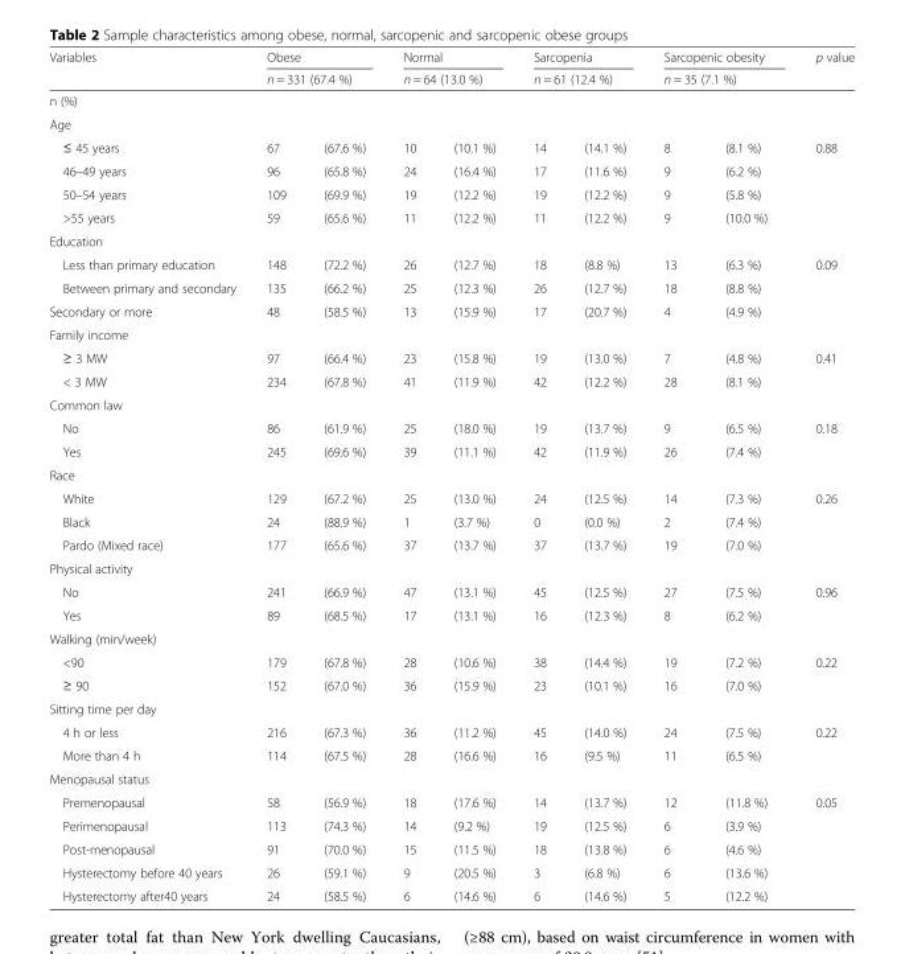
<table><thead><tr><td rowspan="2">Variables</td><td rowspan="2" colspan="2">Obese n = 331 (67.4 %)</td><td rowspan="2" colspan="2">Normal n = 64 (13.0 %)</td><td rowspan="2" colspan="2">Sarcopenia n = 61 (12.4 %)</td><td rowspan="2" colspan="2">Sarcopenic obesity n = 35 (7.1 %)</td><td rowspan="2">p value</td></tr><tr></tr><tr><td colspan="10">n (%)</td></tr><tr><td>Age</td><td></td><td></td><td></td><td></td><td></td><td></td><td></td><td></td><td></td></tr></thead><tbody><tr><td>≤ 45 years</td><td>67</td><td>(67.6 %)</td><td>10</td><td>(10.1 %)</td><td>14</td><td>(14.1 %)</td><td>8</td><td>(8.1 %)</td><td rowspan="4">0.88</td></tr><tr><td>46–49 years</td><td>96</td><td>(65.8 %)</td><td>24</td><td>(16.4 %)</td><td>17</td><td>(11.6 %)</td><td>9</td><td>(6.2 %)</td></tr><tr><td>50–54 years</td><td>109</td><td>(69.9 %)</td><td>19</td><td>(12.2 %)</td><td>19</td><td>(12.2 %)</td><td>9</td><td>(5.8 %)</td></tr><tr><td>&gt;55 years</td><td>59</td><td>(65.6 %)</td><td>11</td><td>(12.2 %)</td><td>11</td><td>(12.2 %)</td><td>9</td><td>(10.0 %)</td></tr><tr><td colspan="10">Education</td></tr><tr><td>Less than primary education</td><td>148</td><td>(72.2 %)</td><td>26</td><td>(12.7 %)</td><td>18</td><td>(8.8 %)</td><td>13</td><td>(6.3 %)</td><td rowspan="3">0.09</td></tr><tr><td>Between primary and secondary</td><td>135</td><td>(66.2 %)</td><td>25</td><td>(12.3 %)</td><td>26</td><td>(12.7 %)</td><td>18</td><td>(8.8 %)</td></tr><tr><td>Secondary or more</td><td>48</td><td>(58.5 %)</td><td>13</td><td>(15.9 %)</td><td>17</td><td>(20.7 %)</td><td>4</td><td>(4.9 %)</td></tr><tr><td colspan="10">Family income</td></tr><tr><td>≥ 3 MW</td><td>97</td><td>(66.4 %)</td><td>23</td><td>(15.8 %)</td><td>19</td><td>(13.0 %)</td><td>7</td><td>(4.8 %)</td><td rowspan="2">0.41</td></tr><tr><td>&lt; 3 MW</td><td>234</td><td>(67.8 %)</td><td>41</td><td>(11.9 %)</td><td>42</td><td>(12.2 %)</td><td>28</td><td>(8.1 %)</td></tr><tr><td colspan="10">Common law</td></tr><tr><td>No</td><td>86</td><td>(61.9 %)</td><td>25</td><td>(18.0 %)</td><td>19</td><td>(13.7 %)</td><td>9</td><td>(6.5 %)</td><td rowspan="2">0.18</td></tr><tr><td>Yes</td><td>245</td><td>(69.6 %)</td><td>39</td><td>(11.1 %)</td><td>42</td><td>(11.9 %)</td><td>26</td><td>(7.4 %)</td></tr><tr><td colspan="10">Race</td></tr><tr><td>White</td><td>129</td><td>(67.2 %)</td><td>25</td><td>(13.0 %)</td><td>24</td><td>(12.5 %)</td><td>14</td><td>(7.3 %)</td><td rowspan="3">0.26</td></tr><tr><td>Black</td><td>24</td><td>(88.9 %)</td><td>1</td><td>(3.7 %)</td><td>0</td><td>(0.0 %)</td><td>2</td><td>(7.4 %)</td></tr><tr><td>Pardo (Mixed race)</td><td>177</td><td>(65.6 %)</td><td>37</td><td>(13.7 %)</td><td>37</td><td>(13.7 %)</td><td>19</td><td>(7.0 %)</td></tr><tr><td colspan="10">Physical activity</td></tr><tr><td>No</td><td>241</td><td>(66.9 %)</td><td>47</td><td>(13.1 %)</td><td>45</td><td>(12.5 %)</td><td>27</td><td>(7.5 %)</td><td rowspan="2">0.96</td></tr><tr><td>Yes</td><td>89</td><td>(68.5 %)</td><td>17</td><td>(13.1 %)</td><td>16</td><td>(12.3 %)</td><td>8</td><td>(6.2 %)</td></tr><tr><td colspan="10">Walking (min/week)</td></tr><tr><td>&lt;90</td><td>179</td><td>(67.8 %)</td><td>28</td><td>(10.6 %)</td><td>38</td><td>(14.4 %)</td><td>19</td><td>(7.2 %)</td><td rowspan="2">0.22</td></tr><tr><td>≥ 90</td><td>152</td><td>(67.0 %)</td><td>36</td><td>(15.9 %)</td><td>23</td><td>(10.1 %)</td><td>16</td><td>(7.0 %)</td></tr><tr><td colspan="10">Sitting time per day</td></tr><tr><td>4 h or less</td><td>216</td><td>(67.3 %)</td><td>36</td><td>(11.2 %)</td><td>45</td><td>(14.0 %)</td><td>24</td><td>(7.5 %)</td><td rowspan="2">0.22</td></tr><tr><td>More than 4 h</td><td>114</td><td>(67.5 %)</td><td>28</td><td>(16.6 %)</td><td>16</td><td>(9.5 %)</td><td>11</td><td>(6.5 %)</td></tr><tr><td colspan="10">Menopausal status</td></tr><tr><td>Premenopausal</td><td>58</td><td>(56.9 %)</td><td>18</td><td>(17.6 %)</td><td>14</td><td>(13.7 %)</td><td>12</td><td>(11.8 %)</td><td rowspan="5">0.05</td></tr><tr><td>Perimenopausal</td><td>113</td><td>(74.3 %)</td><td>14</td><td>(9.2 %)</td><td>19</td><td>(12.5 %)</td><td>6</td><td>(3.9 %)</td></tr><tr><td>Post-menopausal</td><td>91</td><td>(70.0 %)</td><td>15</td><td>(11.5 %)</td><td>18</td><td>(13.8 %)</td><td>6</td><td>(4.6 %)</td></tr><tr><td>Hysterectomy before 40 years</td><td>26</td><td>(59.1 %)</td><td>9</td><td>(20.5 %)</td><td>3</td><td>(6.8 %)</td><td>6</td><td>(13.6 %)</td></tr><tr><td>Hysterectomy after40 years</td><td>24</td><td>(58.5 %)</td><td>6</td><td>(14.6 %)</td><td>6</td><td>(14.6 %)</td><td>5</td><td>(12.2 %)</td></tr></tbody></table>